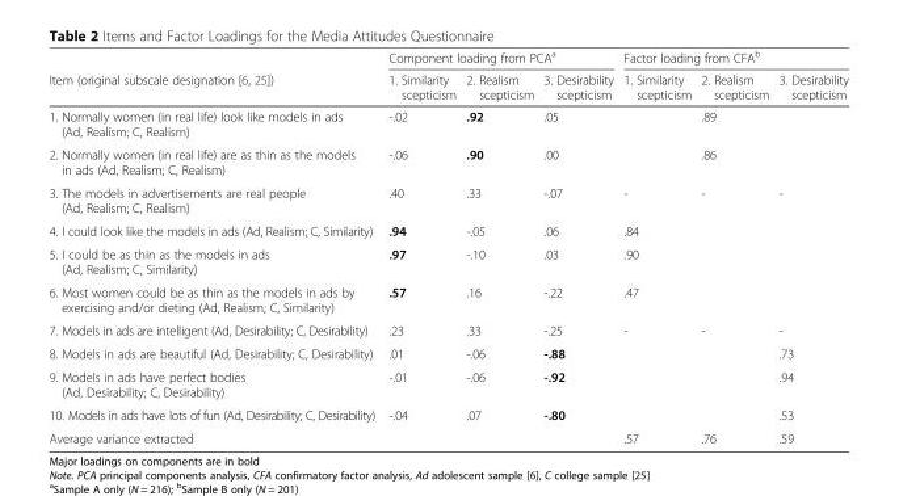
<table><thead><tr><td rowspan="2">Item (original subscale designation [6, 25])</td><td colspan="3">Component loading from PCA<sup>a</sup></td><td colspan="3">Factor loading from CFA<sup>b</sup></td></tr><tr><td>1. Similarity scepticism</td><td>2. Realism scepticism</td><td>3. Desirability scepticism</td><td>1. Similarity scepticism</td><td>2. Realism scepticism</td><td>3. Desirability scepticism</td></tr></thead><tbody><tr><td>1. Normally women (in real life) look like models in ads (Ad, Realism; C, Realism)</td><td>-.02</td><td>.92</td><td>.05</td><td></td><td>.89</td><td></td></tr><tr><td>2. Normally women (in real life) are as thin as the models in ads (Ad, Realism; C, Realism)</td><td>-.06</td><td>.90</td><td>.00</td><td></td><td>.86</td><td></td></tr><tr><td>3. The models in advertisements are real people (Ad, Realism; C, Realism)</td><td>.40</td><td>.33</td><td>-.07</td><td>-</td><td>-</td><td>-</td></tr><tr><td>4. I could look like the models in ads (Ad, Realism; C, Similarity)</td><td>.94</td><td>-.05</td><td>.06</td><td>.84</td><td></td><td></td></tr><tr><td>5. I could be as thin as the models in ads (Ad, Realism; C, Similarity)</td><td>.97</td><td>-.10</td><td>.03</td><td>.90</td><td></td><td></td></tr><tr><td>6. Most women could be as thin as the models in ads by exercising and/or dieting (Ad, Realism; C, Similarity)</td><td>.57</td><td>.16</td><td>-.22</td><td>.47</td><td></td><td></td></tr><tr><td>7. Models in ads are intelligent (Ad, Desirability; C, Desirability)</td><td>.23</td><td>.33</td><td>-.25</td><td>-</td><td>-</td><td>-</td></tr><tr><td>8. Models in ads are beautiful (Ad, Desirability; C, Desirability)</td><td>.01</td><td>-.06</td><td>-.88</td><td></td><td></td><td>.73</td></tr><tr><td>9. Models in ads have perfect bodies (Ad, Desirability; C, Desirability)</td><td>-.01</td><td>-.06</td><td>-.92</td><td></td><td></td><td>.94</td></tr><tr><td>10. Models in ads have lots of fun (Ad, Desirability; C, Desirability)</td><td>-.04</td><td>.07</td><td>-.80</td><td></td><td></td><td>.53</td></tr><tr><td>Average variance extracted</td><td></td><td></td><td></td><td>.57</td><td>.76</td><td>.59</td></tr></tbody></table>